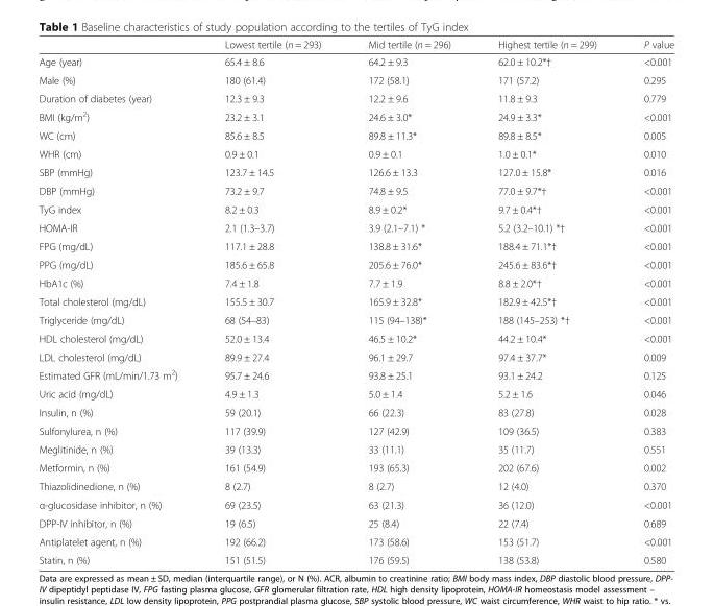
<table><thead><tr><td></td><td>Lowest tertile (n = 293)</td><td>Mid tertile (n = 296)</td><td>Highest tertile (n = 299)</td><td>P value</td></tr></thead><tbody><tr><td>Age (year)</td><td>65.4 ± 8.6</td><td>64.2 ± 9.3</td><td>62.0 ± 10.2*†</td><td>&lt;0.001</td></tr><tr><td>Male (%)</td><td>180 (61.4)</td><td>172 (58.1)</td><td>171 (57.2)</td><td>0.295</td></tr><tr><td>Duration of diabetes (year)</td><td>12.3 ± 9.3</td><td>12.2 ± 9.6</td><td>11.8 ± 9.3</td><td>0.779</td></tr><tr><td>BMI (kg/m<sup>2</sup>)</td><td>23.2 ± 3.1</td><td>24.6 ± 3.0*</td><td>24.9 ± 3.3*</td><td>&lt;0.001</td></tr><tr><td>WC (cm)</td><td>85.6 ± 8.5</td><td>89.8 ± 11.3*</td><td>89.8 ± 8.5*</td><td>0.005</td></tr><tr><td>WHR (cm)</td><td>0.9 ± 0.1</td><td>0.9 ± 0.1</td><td>1.0 ± 0.1*</td><td>0.010</td></tr><tr><td>SBP (mmHg)</td><td>123.7 ± 14.5</td><td>126.6 ± 13.3</td><td>127.0 ± 15.8*</td><td>0.016</td></tr><tr><td>DBP (mmHg)</td><td>73.2 ± 9.7</td><td>74.8 ± 9.5</td><td>77.0 ± 9.7*†</td><td>&lt;0.001</td></tr><tr><td>TyG index</td><td>8.2 ± 0.3</td><td>8.9 ± 0.2*</td><td>9.7 ± 0.4*†</td><td>&lt;0.001</td></tr><tr><td>HOMA-IR</td><td>2.1 (1.3–3.7)</td><td>3.9 (2.1–7.1) *</td><td>5.2 (3.2–10.1) *†</td><td>&lt;0.001</td></tr><tr><td>FPG (mg/dL)</td><td>117.1 ± 28.8</td><td>138.8 ± 31.6*</td><td>188.4 ± 71.1*†</td><td>&lt;0.001</td></tr><tr><td>PPG (mg/dL)</td><td>185.6 ± 65.8</td><td>205.6 ± 76.0*</td><td>245.6 ± 83.6*†</td><td>&lt;0.001</td></tr><tr><td>HbA1c (%)</td><td>7.4 ± 1.8</td><td>7.7 ± 1.9</td><td>8.8 ± 2.0*†</td><td>&lt;0.001</td></tr><tr><td>Total cholesterol (mg/dL)</td><td>155.5 ± 30.7</td><td>165.9 ± 32.8*</td><td>182.9 ± 42.5*†</td><td>&lt;0.001</td></tr><tr><td>Triglyceride (mg/dL)</td><td>68 (54–83)</td><td>115 (94–138)*</td><td>188 (145–253) *†</td><td>&lt;0.001</td></tr><tr><td>HDL cholesterol (mg/dL)</td><td>52.0 ± 13.4</td><td>46.5 ± 10.2*</td><td>44.2 ± 10.4*</td><td>&lt;0.001</td></tr><tr><td>LDL cholesterol (mg/dL)</td><td>89.9 ± 27.4</td><td>96.1 ± 29.7</td><td>97.4 ± 37.7*</td><td>0.009</td></tr><tr><td>Estimated GFR (mL/min/1.73 m<sup>2</sup>)</td><td>95.7 ± 24.6</td><td>93.8 ± 25.1</td><td>93.1 ± 24.2</td><td>0.125</td></tr><tr><td>Uric acid (mg/dL)</td><td>4.9 ± 1.3</td><td>5.0 ± 1.4</td><td>5.2 ± 1.6</td><td>0.046</td></tr><tr><td>Insulin, n (%)</td><td>59 (20.1)</td><td>66 (22.3)</td><td>83 (27.8)</td><td>0.028</td></tr><tr><td>Sulfonylurea, n (%)</td><td>117 (39.9)</td><td>127 (42.9)</td><td>109 (36.5)</td><td>0.383</td></tr><tr><td>Meglitinide, n (%)</td><td>39 (13.3)</td><td>33 (11.1)</td><td>35 (11.7)</td><td>0.551</td></tr><tr><td>Metformin, n (%)</td><td>161 (54.9)</td><td>193 (65.3)</td><td>202 (67.6)</td><td>0.002</td></tr><tr><td>Thiazolidinedione, n (%)</td><td>8 (2.7)</td><td>8 (2.7)</td><td>12 (4.0)</td><td>0.370</td></tr><tr><td>α-glucosidase inhibitor, n (%)</td><td>69 (23.5)</td><td>63 (21.3)</td><td>36 (12.0)</td><td>&lt;0.001</td></tr><tr><td>DPP-IV inhibitor, n (%)</td><td>19 (6.5)</td><td>25 (8.4)</td><td>22 (7.4)</td><td>0.689</td></tr><tr><td>Antiplatelet agent, n (%)</td><td>192 (66.2)</td><td>173 (58.6)</td><td>153 (51.7)</td><td>&lt;0.001</td></tr><tr><td>Statin, n (%)</td><td>151 (51.5)</td><td>176 (59.5)</td><td>138 (53.8)</td><td>0.580</td></tr></tbody></table>